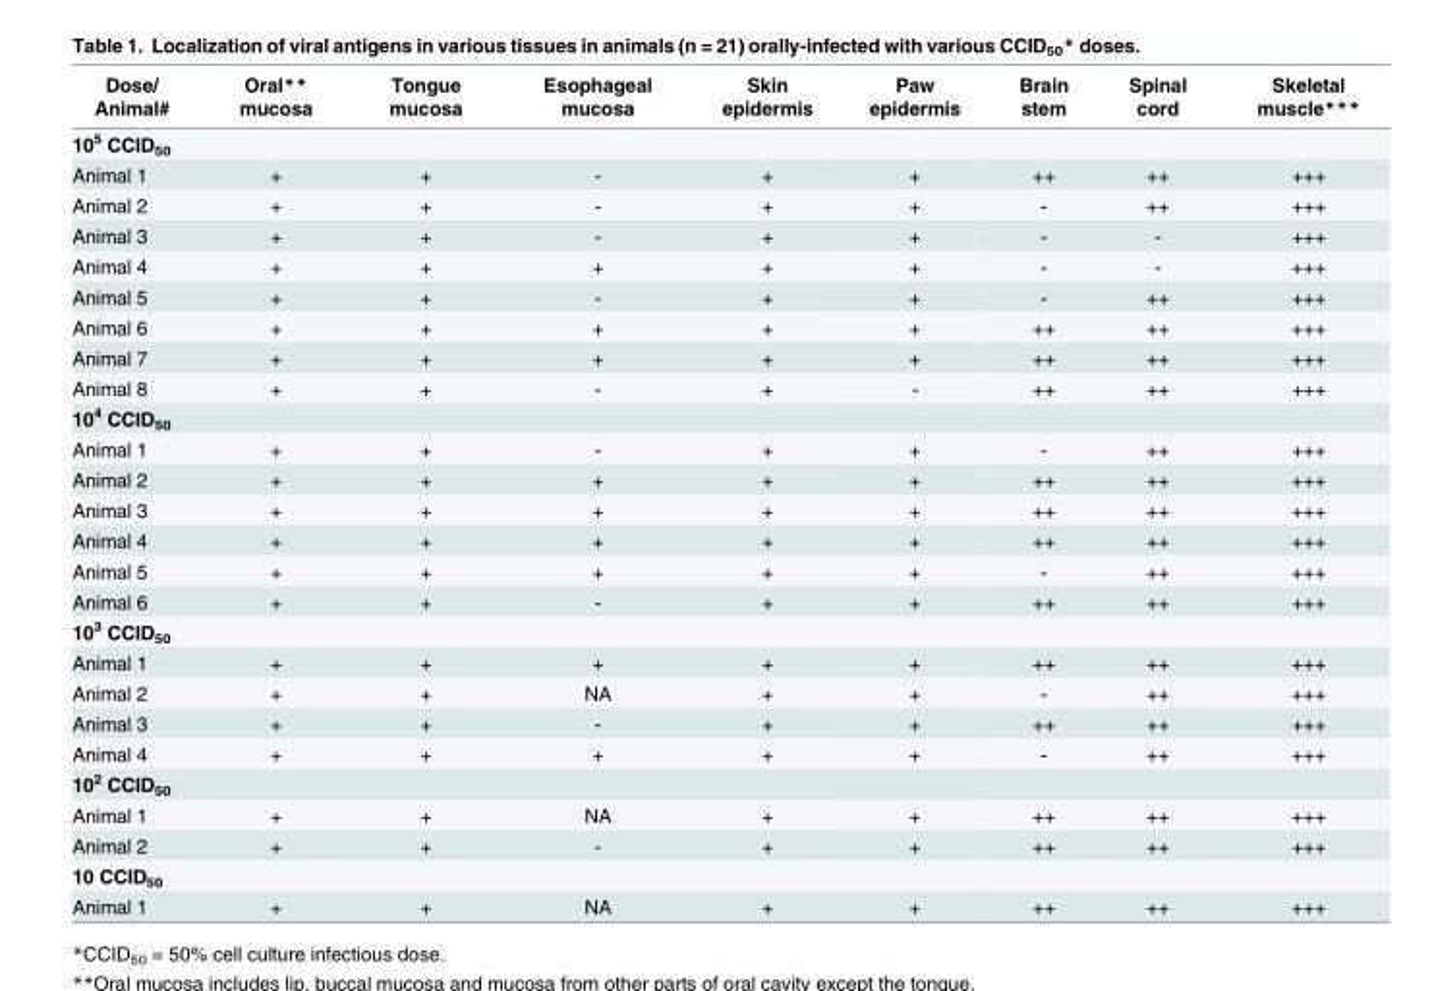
<table><thead><tr><td>Dose/ Animal#</td><td>Oral** mucosa</td><td>Tongue mucosa</td><td>Esophageal mucosa</td><td>Skin epidermis</td><td>Paw epidermis</td><td>Brain stem</td><td>Spinal cord</td><td>Skeletal muscle***</td></tr></thead><tbody><tr><td colspan="9">10<sup>5</sup> CCID<sub>50</sub></td></tr><tr><td>Animal 1</td><td>+</td><td>+</td><td>-</td><td>+</td><td>+</td><td>++</td><td>++</td><td>+++</td></tr><tr><td>Animal 2</td><td>+</td><td>+</td><td>-</td><td>+</td><td>+</td><td>-</td><td>++</td><td>+++</td></tr><tr><td>Animal 3</td><td>+</td><td>+</td><td>-</td><td>+</td><td>+</td><td>-</td><td>-</td><td>+++</td></tr><tr><td>Animal 4</td><td>+</td><td>+</td><td>+</td><td>+</td><td>+</td><td>-</td><td>-</td><td>+++</td></tr><tr><td>Animal 5</td><td>+</td><td>+</td><td>-</td><td>+</td><td>+</td><td>-</td><td>++</td><td>+++</td></tr><tr><td>Animal 6</td><td>+</td><td>+</td><td>+</td><td>+</td><td>+</td><td>++</td><td>++</td><td>+++</td></tr><tr><td>Animal 7</td><td>+</td><td>+</td><td>+</td><td>+</td><td>+</td><td>++</td><td>++</td><td>+++</td></tr><tr><td>Animal 8</td><td>+</td><td>+</td><td>-</td><td>+</td><td>-</td><td>++</td><td>++</td><td>+++</td></tr><tr><td colspan="9">10<sup>4</sup> CCID<sub>50</sub></td></tr><tr><td>Animal 1</td><td>+</td><td>+</td><td>-</td><td>+</td><td>+</td><td>-</td><td>++</td><td>+++</td></tr><tr><td>Animal 2</td><td>+</td><td>+</td><td>+</td><td>+</td><td>+</td><td>++</td><td>++</td><td>+++</td></tr><tr><td>Animal 3</td><td>+</td><td>+</td><td>+</td><td>+</td><td>+</td><td>++</td><td>++</td><td>+++</td></tr><tr><td>Animal 4</td><td>+</td><td>+</td><td>+</td><td>+</td><td>+</td><td>++</td><td>++</td><td>+++</td></tr><tr><td>Animal 5</td><td>+</td><td>+</td><td>+</td><td>+</td><td>+</td><td>-</td><td>++</td><td>+++</td></tr><tr><td>Animal 6</td><td>+</td><td>+</td><td>-</td><td>+</td><td>+</td><td>++</td><td>++</td><td>+++</td></tr><tr><td colspan="9">10<sup>3</sup> CCID<sub>50</sub></td></tr><tr><td>Animal 1</td><td>+</td><td>+</td><td>+</td><td>+</td><td>+</td><td>++</td><td>++</td><td>+++</td></tr><tr><td>Animal 2</td><td>+</td><td>+</td><td>NA</td><td>+</td><td>+</td><td>-</td><td>++</td><td>+++</td></tr><tr><td>Animal 3</td><td>+</td><td>+</td><td>-</td><td>+</td><td>+</td><td>++</td><td>++</td><td>+++</td></tr><tr><td>Animal 4</td><td>+</td><td>+</td><td>+</td><td>+</td><td>+</td><td>-</td><td>++</td><td>+++</td></tr><tr><td colspan="9">10<sup>2</sup> CCID<sub>50</sub></td></tr><tr><td>Animal 1</td><td>+</td><td>+</td><td>NA</td><td>+</td><td>+</td><td>++</td><td>++</td><td>+++</td></tr><tr><td>Animal 2</td><td>+</td><td>+</td><td>-</td><td>+</td><td>+</td><td>++</td><td>++</td><td>+++</td></tr><tr><td colspan="9">10 CCID<sub>50</sub></td></tr><tr><td>Animal 1</td><td>+</td><td>+</td><td>NA</td><td>+</td><td>+</td><td>++</td><td>++</td><td>+++</td></tr></tbody></table>